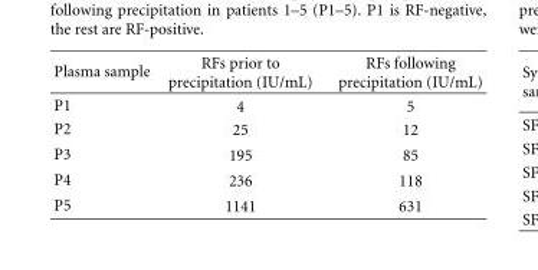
<table><thead><tr><td>Plasma sample</td><td>RFs prior to precipitation (IU/mL)</td><td>RFs following precipitation (IU/mL)</td></tr></thead><tbody><tr><td>P1</td><td>4</td><td>5</td></tr><tr><td>P2</td><td>25</td><td>12</td></tr><tr><td>P3</td><td>195</td><td>85</td></tr><tr><td>P4</td><td>236</td><td>118</td></tr><tr><td>P5</td><td>1141</td><td>631</td></tr></tbody></table>